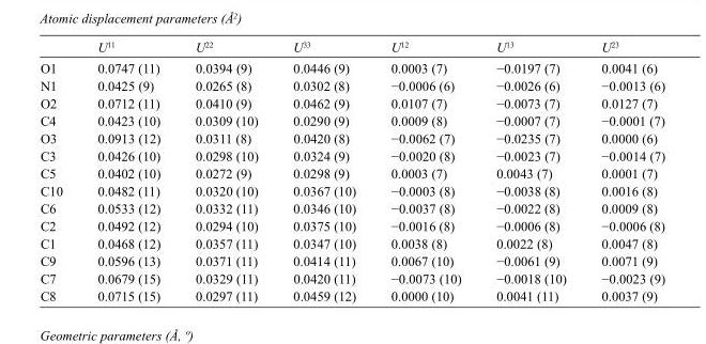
<table><thead><tr><td></td><td>U<sup>11</sup></td><td>U<sup>22</sup></td><td>U<sup>33</sup></td><td>U<sup>12</sup></td><td>U<sup>13</sup></td><td>U<sup>23</sup></td></tr></thead><tbody><tr><td>O1</td><td>0.0747 (11)</td><td>0.0394 (9)</td><td>0.0446 (9)</td><td>0.0003 (7)</td><td>−0.0197 (7)</td><td>0.0041 (6)</td></tr><tr><td>N1</td><td>0.0425 (9)</td><td>0.0265 (8)</td><td>0.0302 (8)</td><td>−0.0006 (6)</td><td>−0.0026 (6)</td><td>−0.0013 (6)</td></tr><tr><td>O2</td><td>0.0712 (11)</td><td>0.0410 (9)</td><td>0.0462 (9)</td><td>0.0107 (7)</td><td>−0.0073 (7)</td><td>0.0127 (7)</td></tr><tr><td>C4</td><td>0.0423 (10)</td><td>0.0309 (10)</td><td>0.0290 (9)</td><td>0.0009 (8)</td><td>−0.0007 (7)</td><td>−0.0001 (7)</td></tr><tr><td>O3</td><td>0.0913 (12)</td><td>0.0311 (8)</td><td>0.0420 (8)</td><td>−0.0062 (7)</td><td>−0.0235 (7)</td><td>0.0000 (6)</td></tr><tr><td>C3</td><td>0.0426 (10)</td><td>0.0298 (10)</td><td>0.0324 (9)</td><td>−0.0020 (8)</td><td>−0.0023 (7)</td><td>−0.0014 (7)</td></tr><tr><td>C5</td><td>0.0402 (10)</td><td>0.0272 (9)</td><td>0.0298 (9)</td><td>0.0003 (7)</td><td>0.0043 (7)</td><td>0.0001 (7)</td></tr><tr><td>C10</td><td>0.0482 (11)</td><td>0.0320 (10)</td><td>0.0367 (10)</td><td>−0.0003 (8)</td><td>−0.0038 (8)</td><td>0.0016 (8)</td></tr><tr><td>C6</td><td>0.0533 (12)</td><td>0.0332 (11)</td><td>0.0346 (10)</td><td>−0.0037 (8)</td><td>−0.0022 (8)</td><td>0.0009 (8)</td></tr><tr><td>C2</td><td>0.0492 (12)</td><td>0.0294 (10)</td><td>0.0375 (10)</td><td>−0.0016 (8)</td><td>−0.0006 (8)</td><td>−0.0006 (8)</td></tr><tr><td>C1</td><td>0.0468 (12)</td><td>0.0357 (11)</td><td>0.0347 (10)</td><td>0.0038 (8)</td><td>0.0022 (8)</td><td>0.0047 (8)</td></tr><tr><td>C9</td><td>0.0596 (13)</td><td>0.0371 (11)</td><td>0.0414 (11)</td><td>0.0067 (10)</td><td>−0.0061 (9)</td><td>0.0071 (9)</td></tr><tr><td>C7</td><td>0.0679 (15)</td><td>0.0329 (11)</td><td>0.0420 (11)</td><td>−0.0073 (10)</td><td>−0.0018 (10)</td><td>−0.0023 (9)</td></tr><tr><td>C8</td><td>0.0715 (15)</td><td>0.0297 (11)</td><td>0.0459 (12)</td><td>0.0000 (10)</td><td>0.0041 (11)</td><td>0.0037 (9)</td></tr></tbody></table>